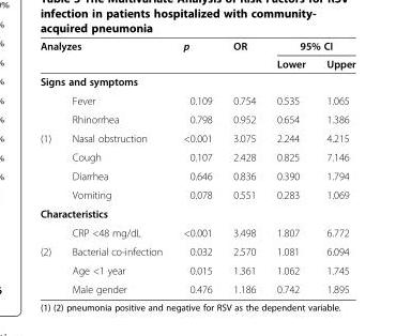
<table><thead><tr><td colspan="2">Analyzes</td><td rowspan="2">p</td><td rowspan="2">OR</td><td colspan="2">95% CI</td></tr><tr><td></td><td></td><td>Lower</td><td>Upper</td></tr></thead><tbody><tr><td colspan="6">Signs and symptoms</td></tr><tr><td></td><td>Fever</td><td>0.109</td><td>0.754</td><td>0.535</td><td>1.065</td></tr><tr><td></td><td>Rhinorrhea</td><td>0.798</td><td>0.952</td><td>0.654</td><td>1.386</td></tr><tr><td rowspan="4">(1)</td><td>Nasal obstruction</td><td>&lt;0.001</td><td>3.075</td><td>2.244</td><td>4.215</td></tr><tr><td>Cough</td><td>0.107</td><td>2.428</td><td>0.825</td><td>7.146</td></tr><tr><td>Diarrhea</td><td>0.646</td><td>0.836</td><td>0.390</td><td>1.794</td></tr><tr><td>Vomiting</td><td>0.078</td><td>0.551</td><td>0.283</td><td>1.069</td></tr><tr><td colspan="6">Characteristics</td></tr><tr><td></td><td>CRP &lt;48 mg/dL</td><td>&lt;0.001</td><td>3.498</td><td>1.807</td><td>6.772</td></tr><tr><td rowspan="3">(2)</td><td>Bacterial co-infection</td><td>0.032</td><td>2.570</td><td>1.081</td><td>6.094</td></tr><tr><td>Age &lt;1 year</td><td>0.015</td><td>1.361</td><td>1.062</td><td>1.745</td></tr><tr><td>Male gender</td><td>0.476</td><td>1.186</td><td>0.742</td><td>1.895</td></tr></tbody></table>